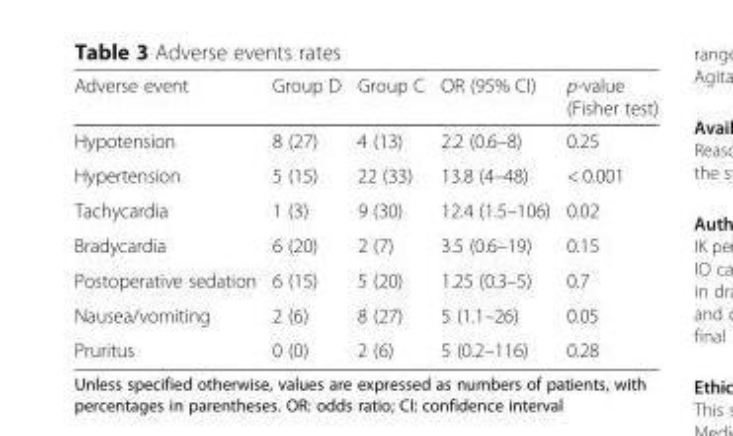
<table><thead><tr><td>Adverse event</td><td>Group D</td><td>Group C</td><td>OR (95% CI)</td><td>p-value (Fisher test)</td></tr></thead><tbody><tr><td>Hypotension</td><td>8 (27)</td><td>4 (13)</td><td>2.2 (0.6–8)</td><td>0.25</td></tr><tr><td>Hypertension</td><td>5 (15)</td><td>22 (33)</td><td>13.8 (4–48)</td><td>&lt; 0.001</td></tr><tr><td>Tachycardia</td><td>1 (3)</td><td>9 (30)</td><td>12.4 (1.5–106)</td><td>0.02</td></tr><tr><td>Bradycardia</td><td>6 (20)</td><td>2 (7)</td><td>3.5 (0.6–19)</td><td>0.15</td></tr><tr><td>Postoperative sedation</td><td>6 (15)</td><td>5 (20)</td><td>1.25 (0.3–5)</td><td>0.7</td></tr><tr><td>Nausea/vomiting</td><td>2 (6)</td><td>8 (27)</td><td>5 (1.1–26)</td><td>0.05</td></tr><tr><td>Pruritus</td><td>0 (0)</td><td>2 (6)</td><td>5 (0.2–116)</td><td>0.28</td></tr></tbody></table>